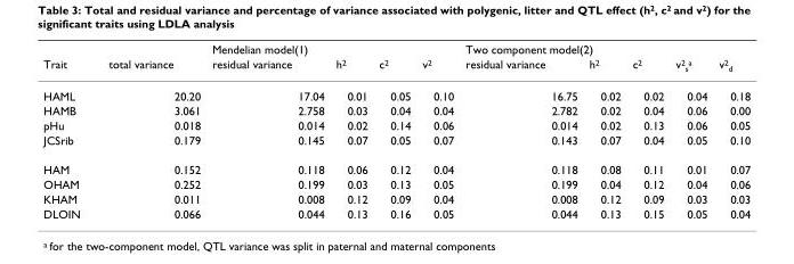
<table><thead><tr><td rowspan="2">Trait</td><td rowspan="2">total variance</td><td colspan="4">Mendelian model(1)</td><td colspan="5">Two component model(2)</td></tr><tr><td>residual variance</td><td>h<sup>2</sup></td><td>c<sup>2</sup></td><td>v<sup>2</sup></td><td>residual variance</td><td>h<sup>2</sup></td><td>c<sup>2</sup></td><td>v<sup>2</sup><sub>s</sub><sup>a</sup></td><td>v<sup>2</sup><sub>d</sub></td></tr></thead><tbody><tr><td>HAML</td><td>20.20</td><td>17.04</td><td>0.01</td><td>0.05</td><td>0.10</td><td>16.75</td><td>0.02</td><td>0.02</td><td>0.04</td><td>0.18</td></tr><tr><td>HAMB</td><td>3.061</td><td>2.758</td><td>0.03</td><td>0.04</td><td>0.04</td><td>2.782</td><td>0.02</td><td>0.04</td><td>0.06</td><td>0.00</td></tr><tr><td>pHu</td><td>0.018</td><td>0.014</td><td>0.02</td><td>0.14</td><td>0.06</td><td>0.014</td><td>0.02</td><td>0.13</td><td>0.06</td><td>0.05</td></tr><tr><td>JCSrib</td><td>0.179</td><td>0.145</td><td>0.07</td><td>0.05</td><td>0.07</td><td>0.143</td><td>0.07</td><td>0.04</td><td>0.05</td><td>0.10</td></tr><tr><td>HAM</td><td>0.152</td><td>0.118</td><td>0.06</td><td>0.12</td><td>0.04</td><td>0.118</td><td>0.08</td><td>0.11</td><td>0.01</td><td>0.07</td></tr><tr><td>OHAM</td><td>0.252</td><td>0.199</td><td>0.03</td><td>0.13</td><td>0.05</td><td>0.199</td><td>0.04</td><td>0.12</td><td>0.04</td><td>0.06</td></tr><tr><td>KHAM</td><td>0.011</td><td>0.008</td><td>0.12</td><td>0.09</td><td>0.04</td><td>0.008</td><td>0.12</td><td>0.09</td><td>0.03</td><td>0.03</td></tr><tr><td>DLOIN</td><td>0.066</td><td>0.044</td><td>0.13</td><td>0.16</td><td>0.05</td><td>0.044</td><td>0.13</td><td>0.15</td><td>0.05</td><td>0.04</td></tr></tbody></table>